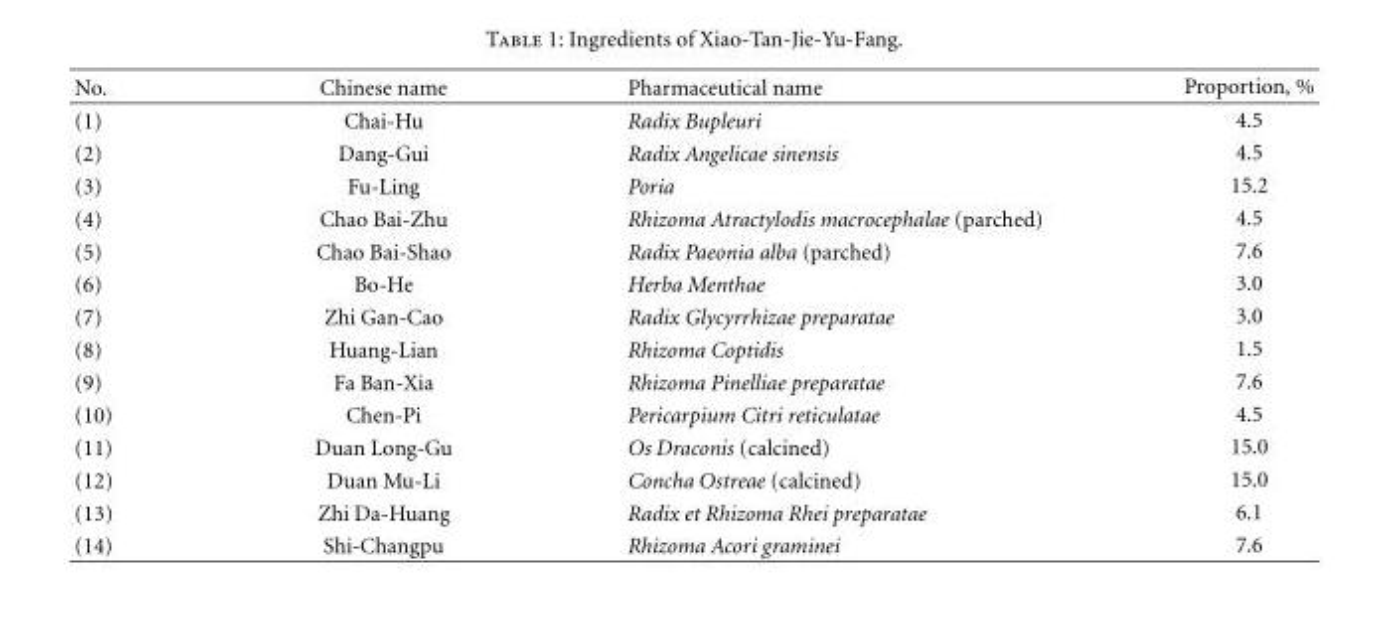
<table><thead><tr><td>No.</td><td>Chinese name</td><td>Pharmaceutical name</td><td>Proportion, %</td></tr></thead><tbody><tr><td>(1)</td><td>Chai-Hu</td><td>Radix Bupleuri</td><td>4.5</td></tr><tr><td>(2)</td><td>Dang-Gui</td><td>Radix Angelicae sinensis</td><td>4.5</td></tr><tr><td>(3)</td><td>Fu-Ling</td><td>Poria</td><td>15.2</td></tr><tr><td>(4)</td><td>Chao Bai-Zhu</td><td>Rhizoma Atractylodis macrocephalae (parched)</td><td>4.5</td></tr><tr><td>(5)</td><td>Chao Bai-Shao</td><td>Radix Paeonia alba (parched)</td><td>7.6</td></tr><tr><td>(6)</td><td>Bo-He</td><td>Herba Menthae</td><td>3.0</td></tr><tr><td>(7)</td><td>Zhi Gan-Cao</td><td>Radix Glycyrrhizae preparatae</td><td>3.0</td></tr><tr><td>(8)</td><td>Huang-Lian</td><td>Rhizoma Coptidis</td><td>1.5</td></tr><tr><td>(9)</td><td>Fa Ban-Xia</td><td>Rhizoma Pinelliae preparatae</td><td>7.6</td></tr><tr><td>(10)</td><td>Chen-Pi</td><td>Pericarpium Citri reticulatae</td><td>4.5</td></tr><tr><td>(11)</td><td>Duan Long-Gu</td><td>Os Draconis (calcined)</td><td>15.0</td></tr><tr><td>(12)</td><td>Duan Mu-Li</td><td>Concha Ostreae (calcined)</td><td>15.0</td></tr><tr><td>(13)</td><td>Zhi Da-Huang</td><td>Radix et Rhizoma Rhei preparatae</td><td>6.1</td></tr><tr><td>(14)</td><td>Shi-Changpu</td><td>Rhizoma Acori graminei</td><td>7.6</td></tr></tbody></table>